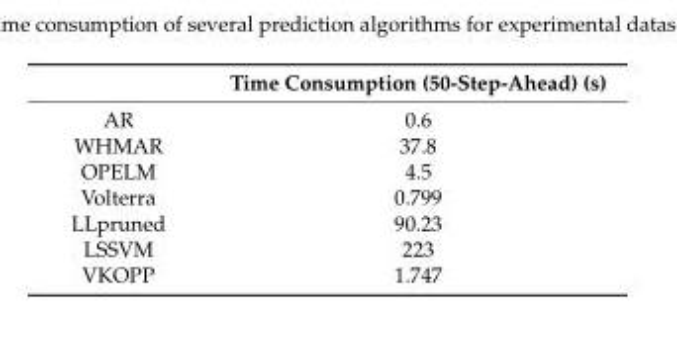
<table><thead><tr><td></td><td>Time Consumption (50-Step-Ahead) (s)</td></tr></thead><tbody><tr><td>AR</td><td>0.6</td></tr><tr><td>WHMAR</td><td>37.8</td></tr><tr><td>OPELM</td><td>4.5</td></tr><tr><td>Volterra</td><td>0.799</td></tr><tr><td>LLpruned</td><td>90.23</td></tr><tr><td>LSSVM</td><td>223</td></tr><tr><td>VKOPP</td><td>1.747</td></tr></tbody></table>